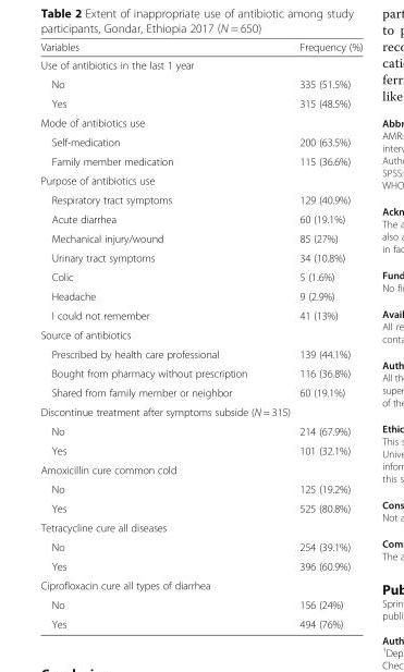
<table><thead><tr><td>Variables</td><td>Frequency (%)</td></tr></thead><tbody><tr><td colspan="2">Use of antibiotics in the last 1 year</td></tr><tr><td>No</td><td>335 (51.5%)</td></tr><tr><td>Yes</td><td>315 (48.5%)</td></tr><tr><td colspan="2">Mode of antibiotics use</td></tr><tr><td>Self-medication</td><td>200 (63.5%)</td></tr><tr><td>Family member medication</td><td>115 (36.6%)</td></tr><tr><td colspan="2">Purpose of antibiotics use</td></tr><tr><td>Respiratory tract symptoms</td><td>129 (40.9%)</td></tr><tr><td>Acute diarrhea</td><td>60 (19.1%)</td></tr><tr><td>Mechanical injury/wound</td><td>85 (27%)</td></tr><tr><td>Urinary tract symptoms</td><td>34 (10.8%)</td></tr><tr><td>Colic</td><td>5 (1.6%)</td></tr><tr><td>Headache</td><td>9 (2.9%)</td></tr><tr><td>I could not remember</td><td>41 (13%)</td></tr><tr><td colspan="2">Source of antibiotics</td></tr><tr><td>Prescribed by health care professional</td><td>139 (44.1%)</td></tr><tr><td>Bought from pharmacy without prescription</td><td>116 (36.8%)</td></tr><tr><td>Shared from family member or neighbor</td><td>60 (19.1%)</td></tr><tr><td colspan="2">Discontinue treatment after symptoms subside (N = 315)</td></tr><tr><td>No</td><td>214 (67.9%)</td></tr><tr><td>Yes</td><td>101 (32.1%)</td></tr><tr><td colspan="2">Amoxicillin cure common cold</td></tr><tr><td>No</td><td>125 (19.2%)</td></tr><tr><td>Yes</td><td>525 (80.8%)</td></tr><tr><td colspan="2">Tetracycline cure all diseases</td></tr><tr><td>No</td><td>254 (39.1%)</td></tr><tr><td>Yes</td><td>396 (60.9%)</td></tr><tr><td colspan="2">Ciprofloxacin cure all types of diarrhea</td></tr><tr><td>No</td><td>156 (24%)</td></tr><tr><td>Yes</td><td>494 (76%)</td></tr></tbody></table>